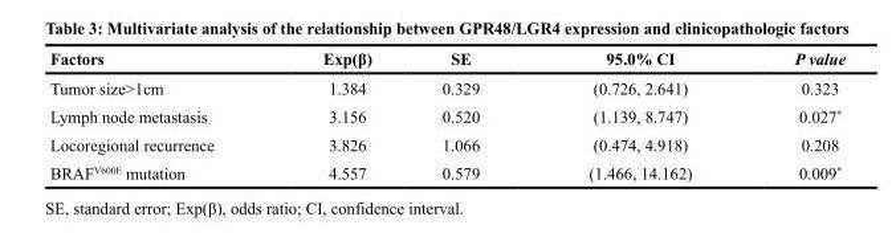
<table><thead><tr><td>Factors</td><td>Exp(β)</td><td>SE</td><td>95.0% CI</td><td>P value</td></tr></thead><tbody><tr><td>Tumor size&gt;1cm</td><td>1.384</td><td>0.329</td><td>(0.726, 2.641)</td><td>0.323</td></tr><tr><td>Lymph node metastasis</td><td>3.156</td><td>0.520</td><td>(1.139, 8.747)</td><td>0.027*</td></tr><tr><td>Locoregional recurrence</td><td>3.826</td><td>1.066</td><td>(0.474, 4.918)</td><td>0.208</td></tr><tr><td>BRAF<sup>V600E</sup> mutation</td><td>4.557</td><td>0.579</td><td>(1.466, 14.162)</td><td>0.009*</td></tr></tbody></table>